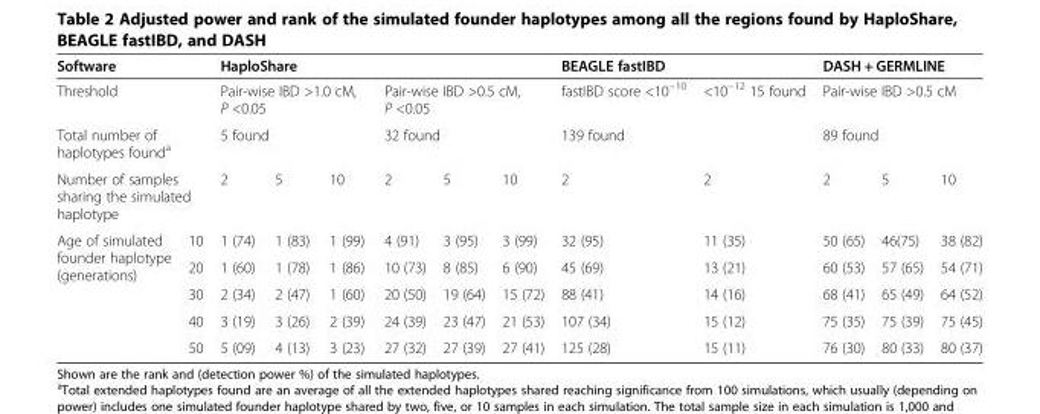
<table><thead><tr><td colspan="2">Software</td><td colspan="6">HaploShare</td><td colspan="2">BEAGLE fastIBD</td><td colspan="3">DASH + GERMLINE</td></tr></thead><tbody><tr><td colspan="2">Threshold</td><td colspan="3">Pair-wise IBD &gt;1.0 cM, P &lt;0.05</td><td colspan="3">Pair-wise IBD &gt;0.5 cM, P &lt;0.05</td><td>fastIBD score &lt;10<sup>−10</sup></td><td>&lt;10<sup>−12</sup> 15 found</td><td colspan="3">Pair-wise IBD &gt;0.5 cM</td></tr><tr><td colspan="2">Total number of haplotypes found<sup>a</sup></td><td colspan="3">5 found</td><td colspan="3">32 found</td><td>139 found</td><td></td><td colspan="3">89 found</td></tr><tr><td colspan="2">Number of samples sharing the simulated haplotype</td><td>2</td><td>5</td><td>10</td><td>2</td><td>5</td><td>10</td><td>2</td><td>2</td><td>2</td><td>5</td><td>10</td></tr><tr><td rowspan="5">Age of simulated founder haplotype (generations)</td><td>10</td><td>1 (74)</td><td>1 (83)</td><td>1 (99)</td><td>4 (91)</td><td>3 (95)</td><td>3 (99)</td><td>32 (95)</td><td>11 (35)</td><td>50 (65)</td><td>46(75)</td><td>38 (82)</td></tr><tr><td>20</td><td>1 (60)</td><td>1 (78)</td><td>1 (86)</td><td>10 (73)</td><td>8 (85)</td><td>6 (90)</td><td>45 (69)</td><td>13 (21)</td><td>60 (53)</td><td>57 (65)</td><td>54 (71)</td></tr><tr><td>30</td><td>2 (34)</td><td>2 (47)</td><td>1 (60)</td><td>20 (50)</td><td>19 (64)</td><td>15 (72)</td><td>88 (41)</td><td>14 (16)</td><td>68 (41)</td><td>65 (49)</td><td>64 (52)</td></tr><tr><td>40</td><td>3 (19)</td><td>3 (26)</td><td>2 (39)</td><td>24 (39)</td><td>23 (47)</td><td>21 (53)</td><td>107 (34)</td><td>15 (12)</td><td>75 (35)</td><td>75 (39)</td><td>75 (45)</td></tr><tr><td>50</td><td>5 (09)</td><td>4 (13)</td><td>3 (23)</td><td>27 (32)</td><td>27 (39)</td><td>27 (41)</td><td>125 (28)</td><td>15 (11)</td><td>76 (30)</td><td>80 (33)</td><td>80 (37)</td></tr></tbody></table>